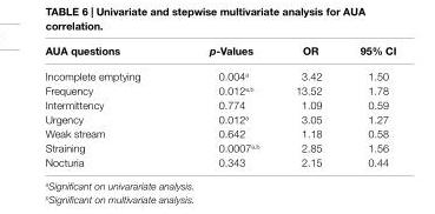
<table><thead><tr><td>aUa questions</td><td>p-Values</td><td>Or</td><td>95%</td></tr></thead><tbody><tr><td>Incomplete emptying</td><td>0.004<sup>a</sup></td><td>3.42</td><td>1.50</td></tr><tr><td>Frequency</td><td>0.012<sup>a,b</sup></td><td>13.52</td><td>1.78</td></tr><tr><td>Intermittency</td><td>0.774</td><td>1.09</td><td>0.59</td></tr><tr><td>Urgency</td><td>0.012<sup>a</sup></td><td>3.05</td><td>1.27</td></tr><tr><td>Weak stream</td><td>0.642</td><td>1.18</td><td>0.58</td></tr><tr><td>Straining</td><td>0.0007<sup>a,b</sup></td><td>2.85</td><td>1.56</td></tr><tr><td>Nocturia</td><td>0.343</td><td>2.15</td><td>0.44</td></tr></tbody></table>